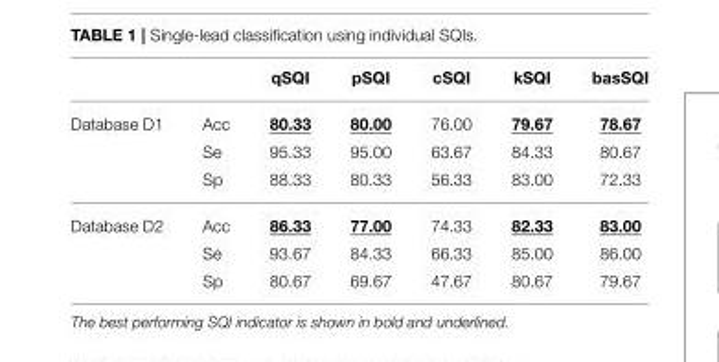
<table><thead><tr><td></td><td></td><td>qSQI</td><td>pSQI</td><td>cSQI</td><td>kSQI</td><td>basSQI</td></tr></thead><tbody><tr><td rowspan="3">Database D1</td><td>Acc</td><td>80.33</td><td>80.00</td><td>76.00</td><td>79.67</td><td>78.67</td></tr><tr><td>Se</td><td>95.33</td><td>95.00</td><td>63.67</td><td>84.33</td><td>80.67</td></tr><tr><td>Sp</td><td>88.33</td><td>80.33</td><td>56.33</td><td>83.00</td><td>72.33</td></tr><tr><td rowspan="3">Database D2</td><td>Acc</td><td>86.33</td><td>77.00</td><td>74.33</td><td>82.33</td><td>83.00</td></tr><tr><td>Se</td><td>93.67</td><td>84.33</td><td>66.33</td><td>85.00</td><td>86.00</td></tr><tr><td>Sp</td><td>80.67</td><td>69.67</td><td>47.67</td><td>80.67</td><td>79.67</td></tr></tbody></table>